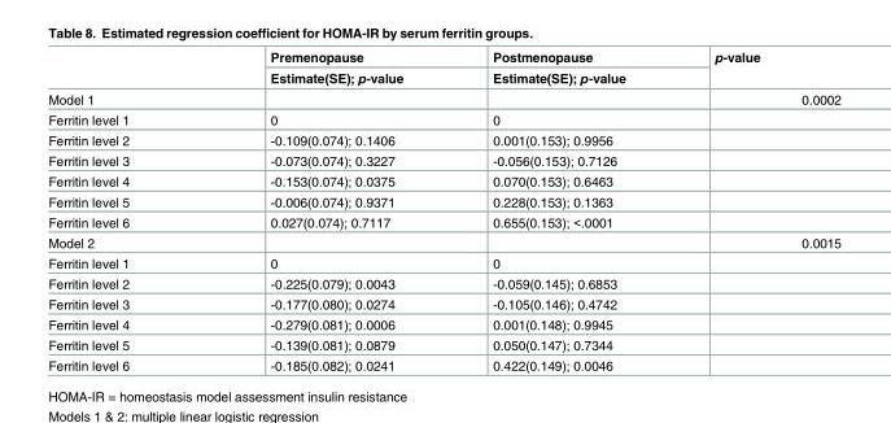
<table><thead><tr><td rowspan="2"></td><td rowspan="2">Premenopause Estimate(SE); p-value</td><td rowspan="2">Postmenopause Estimate(SE); p-value</td><td rowspan="2">p-value</td></tr><tr></tr></thead><tbody><tr><td>Model 1</td><td></td><td></td><td>0.0002</td></tr><tr><td>Ferritin level 1</td><td>0</td><td>0</td><td></td></tr><tr><td>Ferritin level 2</td><td>-0.109(0.074); 0.1406</td><td>0.001(0.153); 0.9956</td><td></td></tr><tr><td>Ferritin level 3</td><td>-0.073(0.074); 0.3227</td><td>-0.056(0.153); 0.7126</td><td></td></tr><tr><td>Ferritin level 4</td><td>-0.153(0.074); 0.0375</td><td>0.070(0.153); 0.6463</td><td></td></tr><tr><td>Ferritin level 5</td><td>-0.006(0.074); 0.9371</td><td>0.228(0.153); 0.1363</td><td></td></tr><tr><td>Ferritin level 6</td><td>0.027(0.074); 0.7117</td><td>0.655(0.153); &lt;.0001</td><td></td></tr><tr><td>Model 2</td><td></td><td></td><td>0.0015</td></tr><tr><td>Ferritin level 1</td><td>0</td><td>0</td><td></td></tr><tr><td>Ferritin level 2</td><td>-0.225(0.079); 0.0043</td><td>-0.059(0.145); 0.6853</td><td></td></tr><tr><td>Ferritin level 3</td><td>-0.177(0.080); 0.0274</td><td>-0.105(0.146); 0.4742</td><td></td></tr><tr><td>Ferritin level 4</td><td>-0.279(0.081); 0.0006</td><td>0.001(0.148); 0.9945</td><td></td></tr><tr><td>Ferritin level 5</td><td>-0.139(0.081); 0.0879</td><td>0.050(0.147); 0.7344</td><td></td></tr><tr><td>Ferritin level 6</td><td>-0.185(0.082); 0.0241</td><td>0.422(0.149); 0.0046</td><td></td></tr></tbody></table>